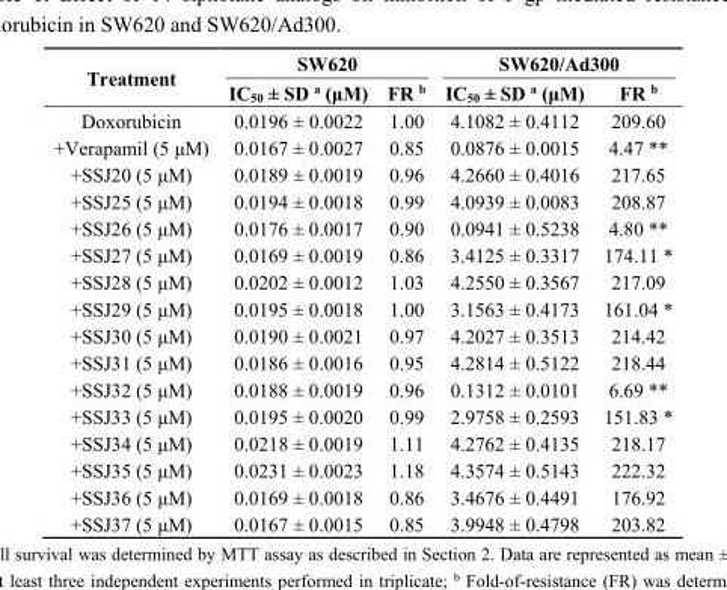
<table><thead><tr><td rowspan="2">Treatment</td><td colspan="2">SW620</td><td colspan="2">SW620/Ad300</td></tr><tr><td>IC<sub>50</sub> ± SD <sup>a</sup> (μM)</td><td>FR <sup>b</sup></td><td>IC<sub>50</sub> ± SD <sup>a</sup> (μM)</td><td>FR <sup>b</sup></td></tr></thead><tbody><tr><td>Doxorubicin</td><td>0.0196 ± 0.0022</td><td>1.00</td><td>4.1082 ± 0.4112</td><td>209.60</td></tr><tr><td>+Verapamil (5 μM)</td><td>0.0167 ± 0.0027</td><td>0.85</td><td>0.0876 ± 0.0015</td><td>4.47 **</td></tr><tr><td>+SSJ20 (5 μM)</td><td>0.0189 ± 0.0019</td><td>0.96</td><td>4.2660 ± 0.4016</td><td>217.65</td></tr><tr><td>+SSJ25 (5 μM)</td><td>0.0194 ± 0.0018</td><td>0.99</td><td>4.0939 ± 0.0083</td><td>208.87</td></tr><tr><td>+SSJ26 (5 μM)</td><td>0.0176 ± 0.0017</td><td>0.90</td><td>0.0941 ± 0.5238</td><td>4.80 **</td></tr><tr><td>+SSJ27 (5 μM)</td><td>0.0169 ± 0.0019</td><td>0.86</td><td>3.4125 ± 0.3317</td><td>174.11 *</td></tr><tr><td>+SSJ28 (5 μM)</td><td>0.0202 ± 0.0012</td><td>1.03</td><td>4.2550 ± 0.3567</td><td>217.09</td></tr><tr><td>+SSJ29 (5 μM)</td><td>0.0195 ± 0.0018</td><td>1.00</td><td>3.1563 ± 0.4173</td><td>161.04 *</td></tr><tr><td>+SSJ30 (5 μM)</td><td>0.0190 ± 0.0021</td><td>0.97</td><td>4.2027 ± 0.3513</td><td>214.42</td></tr><tr><td>+SSJ31 (5 μM)</td><td>0.0186 ± 0.0016</td><td>0.95</td><td>4.2814 ± 0.5122</td><td>218.44</td></tr><tr><td>+SSJ32 (5 μM)</td><td>0.0188 ± 0.0019</td><td>0.96</td><td>0.1312 ± 0.0101</td><td>6.69 **</td></tr><tr><td>+SSJ33 (5 μM)</td><td>0.0195 ± 0.0020</td><td>0.99</td><td>2.9758 ± 0.2593</td><td>151.83 *</td></tr><tr><td>+SSJ34 (5 μM)</td><td>0.0218 ± 0.0019</td><td>1.11</td><td>4.2762 ± 0.4135</td><td>218.17</td></tr><tr><td>+SSJ35 (5 μM)</td><td>0.0231 ± 0.0023</td><td>1.18</td><td>4.3574 ± 0.5143</td><td>222.32</td></tr><tr><td>+SSJ36 (5 μM)</td><td>0.0169 ± 0.0018</td><td>0.86</td><td>3.4676 ± 0.4491</td><td>176.92</td></tr><tr><td>+SSJ37 (5 μM)</td><td>0.0167 ± 0.0015</td><td>0.85</td><td>3.9948 ± 0.4798</td><td>203.82</td></tr></tbody></table>